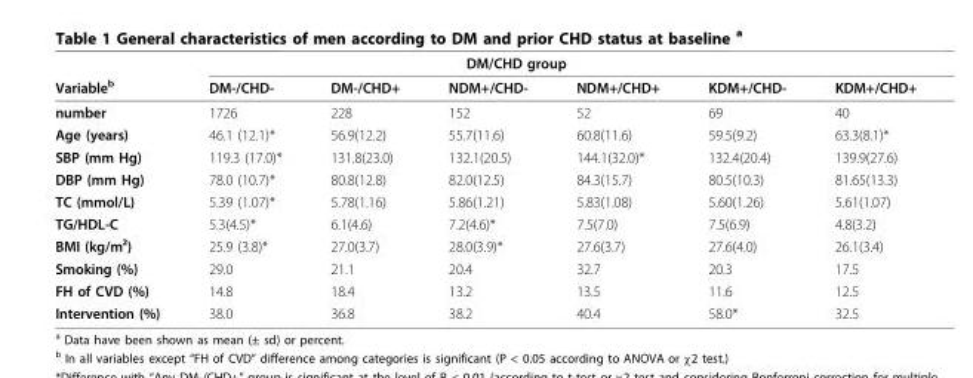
<table><thead><tr><td rowspan="2">Variable<sup>b</sup></td><td colspan="5">DM/CHD group</td><td rowspan="2">KDM+/CHD+</td></tr><tr><td>DM-/CHD-</td><td>DM-/CHD+</td><td>NDM+/CHD-</td><td>NDM+/CHD+</td><td>KDM+/CHD-</td></tr></thead><tbody><tr><td>number</td><td>1726</td><td>228</td><td>152</td><td>52</td><td>69</td><td>40</td></tr><tr><td>Age (years)</td><td>46.1 (12.1)*</td><td>56.9(12.2)</td><td>55.7(11.6)</td><td>60.8(11.6)</td><td>59.5(9.2)</td><td>63.3(8.1)*</td></tr><tr><td>SBP (mm Hg)</td><td>119.3 (17.0)*</td><td>131.8(23.0)</td><td>132.1(20.5)</td><td>144.1(32.0)*</td><td>132.4(20.4)</td><td>139.9(27.6)</td></tr><tr><td>DBP (mm Hg)</td><td>78.0 (10.7)*</td><td>80.8(12.8)</td><td>82.0(12.5)</td><td>84.3(15.7)</td><td>80.5(10.3)</td><td>81.65(13.3)</td></tr><tr><td>TC (mmol/L)</td><td>5.39 (1.07)*</td><td>5.78(1.16)</td><td>5.86(1.21)</td><td>5.83(1.08)</td><td>5.60(1.26)</td><td>5.61(1.07)</td></tr><tr><td>TG/HDL-C</td><td>5.3(4.5)*</td><td>6.1(4.6)</td><td>7.2(4.6)*</td><td>7.5(7.0)</td><td>7.5(6.9)</td><td>4.8(3.2)</td></tr><tr><td>BMI (kg/m²)</td><td>25.9 (3.8)*</td><td>27.0(3.7)</td><td>28.0(3.9)*</td><td>27.6(3.7)</td><td>27.6(4.0)</td><td>26.1(3.4)</td></tr><tr><td>Smoking (%)</td><td>29.0</td><td>21.1</td><td>20.4</td><td>32.7</td><td>20.3</td><td>17.5</td></tr><tr><td>FH of CVD (%)</td><td>14.8</td><td>18.4</td><td>13.2</td><td>13.5</td><td>11.6</td><td>12.5</td></tr><tr><td>Intervention (%)</td><td>38.0</td><td>36.8</td><td>38.2</td><td>40.4</td><td>58.0*</td><td>32.5</td></tr></tbody></table>